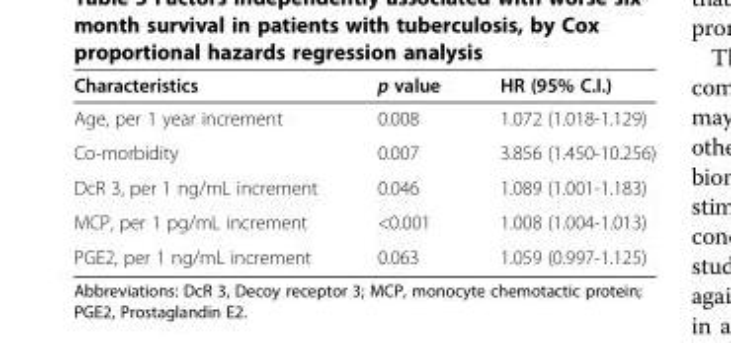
<table><thead><tr><td>Characteristics</td><td>p value</td><td>HR (95% C.I.)</td></tr></thead><tbody><tr><td>Age, per 1 year increment</td><td>0.008</td><td>1.072 (1.018-1.129)</td></tr><tr><td>Co-morbidity</td><td>0.007</td><td>3.856 (1.450-10.256)</td></tr><tr><td>DcR 3, per 1 ng/mL increment</td><td>0.046</td><td>1.089 (1.001-1.183)</td></tr><tr><td>MCP, per 1 pg/mL increment</td><td>&lt;0.001</td><td>1.008 (1.004-1.013)</td></tr><tr><td>PGE2, per 1 ng/mL increment</td><td>0.063</td><td>1.059 (0.997-1.125)</td></tr></tbody></table>